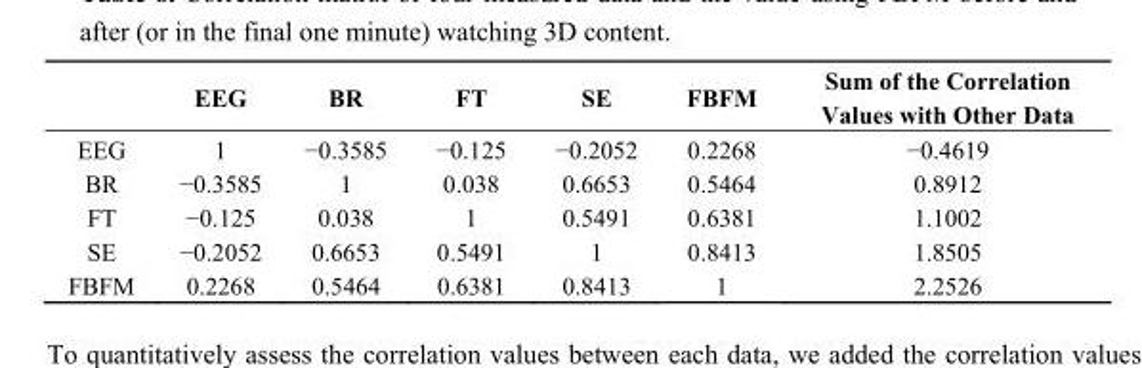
<table><thead><tr><td></td><td>EEG</td><td>BR</td><td>FT</td><td>SE</td><td>FBFM</td><td>Sum of the Correlation Values with Other Data</td></tr></thead><tbody><tr><td>EEG</td><td>1</td><td>−0.3585</td><td>−0.125</td><td>−0.2052</td><td>0.2268</td><td>−0.4619</td></tr><tr><td>BR</td><td>−0.3585</td><td>1</td><td>0.038</td><td>0.6653</td><td>0.5464</td><td>0.8912</td></tr><tr><td>FT</td><td>−0.125</td><td>0.038</td><td>1</td><td>0.5491</td><td>0.6381</td><td>1.1002</td></tr><tr><td>SE</td><td>−0.2052</td><td>0.6653</td><td>0.5491</td><td>1</td><td>0.8413</td><td>1.8505</td></tr><tr><td>FBFM</td><td>0.2268</td><td>0.5464</td><td>0.6381</td><td>0.8413</td><td>1</td><td>2.2526</td></tr></tbody></table>